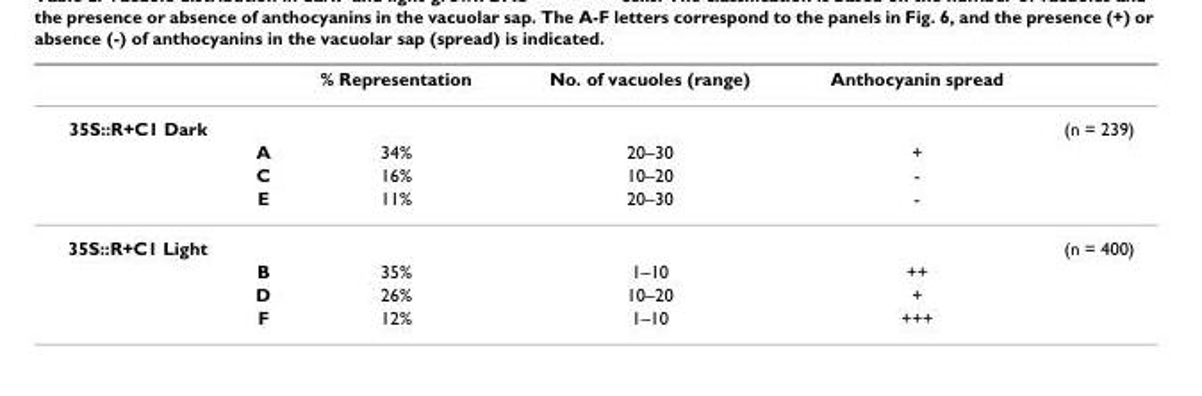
<table><thead><tr><td></td><td></td><td>% Representation</td><td>No. of vacuoles (range)</td><td>Anthocyanin spread</td><td></td></tr></thead><tbody><tr><td rowspan="4">35S::R+C1 Dark</td><td></td><td></td><td></td><td></td><td>(n = 239)</td></tr><tr><td>A</td><td>34%</td><td>20–30</td><td>+</td><td></td></tr><tr><td>C</td><td>16%</td><td>10–20</td><td>-</td><td></td></tr><tr><td>E</td><td>11%</td><td>20–30</td><td>-</td><td></td></tr><tr><td rowspan="4">35S::R+C1 Light</td><td></td><td></td><td></td><td></td><td>(n = 400)</td></tr><tr><td>B</td><td>35%</td><td>1–10</td><td>++</td><td></td></tr><tr><td>D</td><td>26%</td><td>10–20</td><td>+</td><td></td></tr><tr><td>F</td><td>12%</td><td>1–10</td><td>+++</td><td></td></tr></tbody></table>